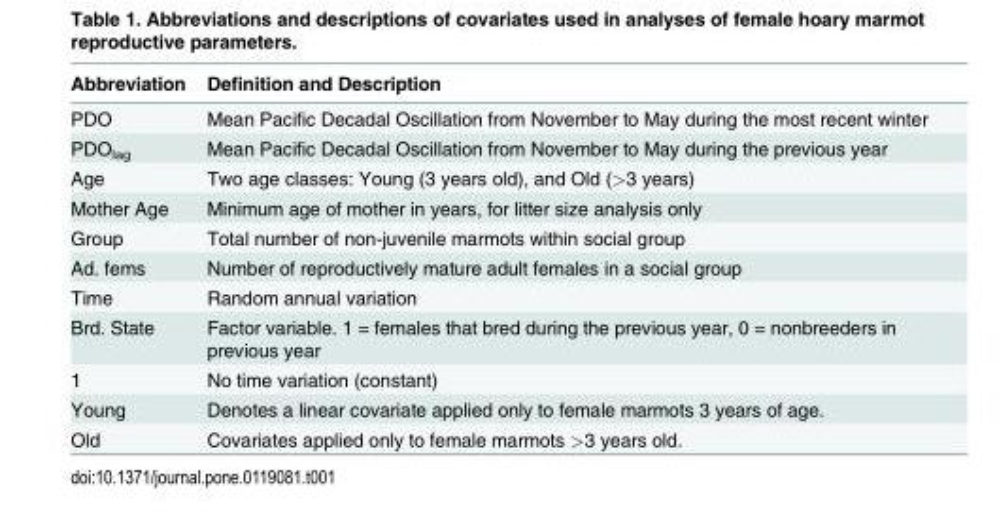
<table><thead><tr><td>Abbreviation</td><td>Definition and Description</td></tr></thead><tbody><tr><td>PDO</td><td>Mean Pacific Decadal Oscillation from November to May during the most recent winter</td></tr><tr><td>PDO<sub>lag</sub></td><td>Mean Pacific Decadal Oscillation from November to May during the previous year</td></tr><tr><td>Age</td><td>Two age classes: Young (3 years old), and Old (&gt;3 years)</td></tr><tr><td>Mother Age</td><td>Minimum age of mother in years, for litter size analysis only</td></tr><tr><td>Group</td><td>Total number of non-juvenile marmots within social group</td></tr><tr><td>Ad. fems</td><td>Number of reproductively mature adult females in a social group</td></tr><tr><td>Time</td><td>Random annual variation</td></tr><tr><td>Brd. State</td><td>Factor variable. 1 = females that bred during the previous year, 0 = nonbreeders in previous year</td></tr><tr><td>1</td><td>No time variation (constant)</td></tr><tr><td>Young</td><td>Denotes a linear covariate applied only to female marmots 3 years of age.</td></tr><tr><td>Old</td><td>Covariates applied only to female marmots &gt;3 years old.</td></tr></tbody></table>